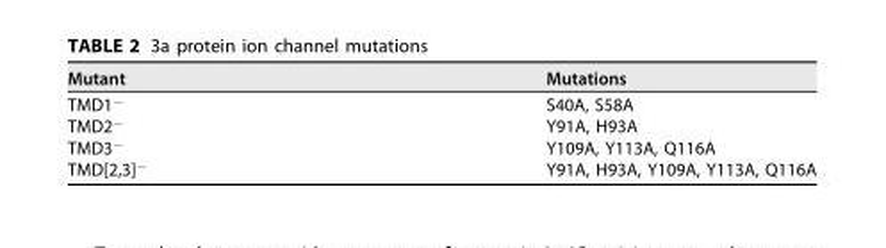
<table><thead><tr><td>Mutant</td><td>Mutations</td></tr></thead><tbody><tr><td>TMD1<sup>−</sup></td><td>S40A, S58A</td></tr><tr><td>TMD2<sup>−</sup></td><td>Y91A, H93A</td></tr><tr><td>TMD3<sup>−</sup></td><td>Y109A, Y113A, Q116A</td></tr><tr><td>TMD[2,3]<sup>−</sup></td><td>Y91A, H93A, Y109A, Y113A, Q116A</td></tr></tbody></table>